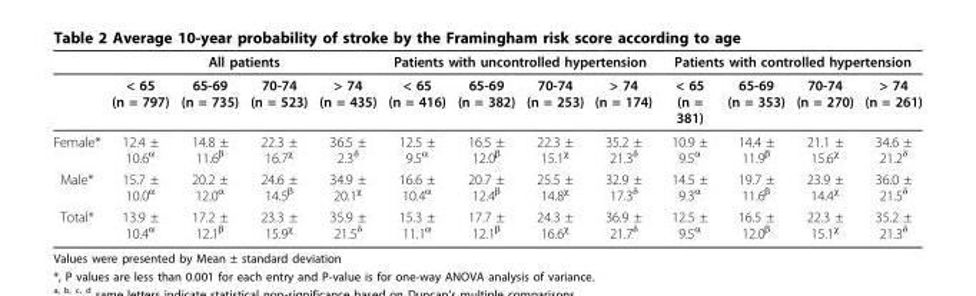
<table><thead><tr><td rowspan="2"></td><td colspan="4">All patients</td><td colspan="4">Patients with uncontrolled hypertension</td><td colspan="4">Patients with controlled hypertension</td></tr><tr><td>&lt; 65 (n = 797)</td><td>65-69 (n = 735)</td><td>70-74 (n = 523)</td><td>&gt; 74 (n = 435)</td><td>&lt; 65 (n = 416)</td><td>65-69 (n = 382)</td><td>70-74 (n = 253)</td><td>&gt; 74 (n = 174)</td><td>&lt; 65 (n = 381)</td><td>65-69 (n = 353)</td><td>70-74 (n = 270)</td><td>&gt; 74 (n = 261)</td></tr></thead><tbody><tr><td>Female*</td><td>12.4 ± 10.6<sup>α</sup></td><td>14.8 ± 11.6<sup>β</sup></td><td>22.3 ± 16.7<sup>χ</sup></td><td>36.5 ± 2.3<sup>δ</sup></td><td>12.5 ± 9.5<sup>α</sup></td><td>16.5 ± 12.0<sup>β</sup></td><td>22.3 ± 15.1<sup>χ</sup></td><td>35.2 ± 21.3<sup>δ</sup></td><td>10.9 ± 9.5<sup>α</sup></td><td>14.4 ± 11.9<sup>β</sup></td><td>21.1 ± 15.6<sup>χ</sup></td><td>34.6 ± 21.2<sup>δ</sup></td></tr><tr><td>Male*</td><td>15.7 ± 10.0<sup>α</sup></td><td>20.2 ± 12.0<sup>α</sup></td><td>24.6 ± 14.5<sup>β</sup></td><td>34.9 ± 20.1<sup>χ</sup></td><td>16.6 ± 10.4<sup>α</sup></td><td>20.7 ± 12.4<sup>β</sup></td><td>25.5 ± 14.8<sup>χ</sup></td><td>32.9 ± 17.3<sup>δ</sup></td><td>14.5 ± 9.3<sup>α</sup></td><td>19.7 ± 11.6<sup>β</sup></td><td>23.9 ± 14.4<sup>χ</sup></td><td>36.0 ± 21.5<sup>δ</sup></td></tr><tr><td>Total*</td><td>13.9 ± 10.4<sup>α</sup></td><td>17.2 ± 12.1<sup>β</sup></td><td>23.3 ± 15.9<sup>χ</sup></td><td>35.9 ± 21.5<sup>δ</sup></td><td>15.3 ± 11.1<sup>α</sup></td><td>17.7 ± 12.1<sup>β</sup></td><td>24.3 ± 16.6<sup>χ</sup></td><td>36.9 ± 21.7<sup>δ</sup></td><td>12.5 ± 9.5<sup>α</sup></td><td>16.5 ± 12.0<sup>β</sup></td><td>22.3 ± 15.1<sup>χ</sup></td><td>35.2 ± 21.3<sup>δ</sup></td></tr></tbody></table>